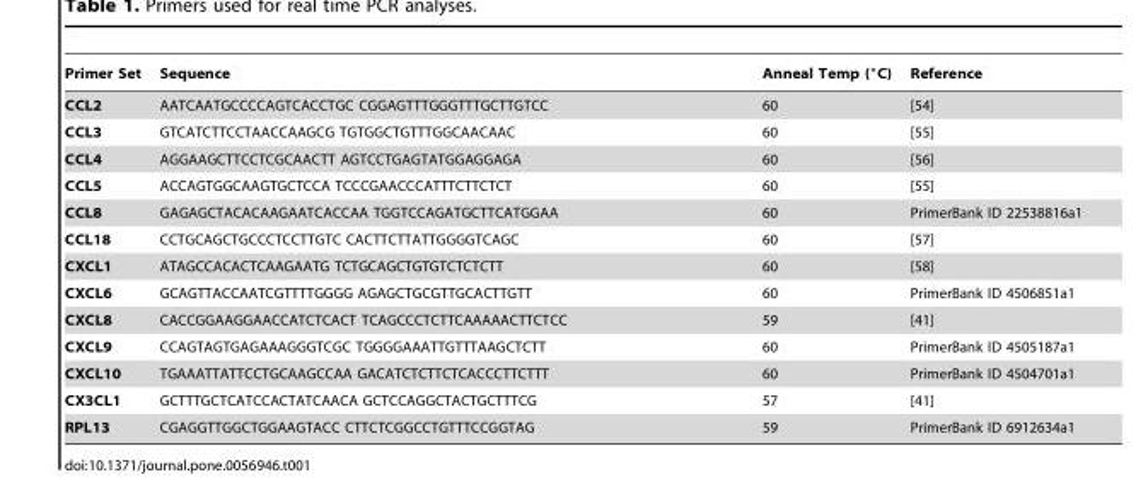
<table><thead><tr><td>Primer Set</td><td>Sequence</td><td>Anneal Temp (°C)</td><td>Reference</td></tr></thead><tbody><tr><td>CCL2</td><td>AATCAATGCCCCAGTCACCTGC CGGAGTTTGGGTTTGCTTGTCC</td><td>60</td><td>[54]</td></tr><tr><td>CCL3</td><td>GTCATCTTCCTAACCAAGCG TGTGGCTGTTTGGCAACAAC</td><td>60</td><td>[55]</td></tr><tr><td>CCL4</td><td>AGGAAGCTTCCTCGCAACTT AGTCCTGAGTATGGAGGAGA</td><td>60</td><td>[56]</td></tr><tr><td>CCL5</td><td>ACCAGTGGCAAGTGCTCCA TCCCGAACCCATTTCTTCTCT</td><td>60</td><td>[55]</td></tr><tr><td>CCL8</td><td>GAGAGCTACACAAGAATCACCAA TGGTCCAGATGCTTCATGGAA</td><td>60</td><td>PrimerBank ID 22538816a1</td></tr><tr><td>CCL18</td><td>CCTGCAGCTGCCCTCCTTGTC CACTTCTTATTGGGGTCAGC</td><td>60</td><td>[57]</td></tr><tr><td>CXCL1</td><td>ATAGCCACACTCAAGAATG TCTGCAGCTGTGTCTCTCTT</td><td>60</td><td>[58]</td></tr><tr><td>CXCL6</td><td>GCAGTTACCAATCGTTTTGGGG AGAGCTGCGTTGCACTTGTT</td><td>60</td><td>PrimerBank ID 4506851a1</td></tr><tr><td>CXCL8</td><td>CACCGGAAGGAACCATCTCACT TCAGCCCTCTTCAAAAACTTCTCC</td><td>59</td><td>[41]</td></tr><tr><td>CXCL9</td><td>CCAGTAGTGAGAAAGGGTCGC TGGGGAAATTGTTTAAGCTCTT</td><td>60</td><td>PrimerBank ID 4505187a1</td></tr><tr><td>CXCL10</td><td>TGAAATTATTCCTGCAAGCCAA GACATCTCTTCTCACCCTTCTTT</td><td>60</td><td>PrimerBank ID 4504701a1</td></tr><tr><td>CX3CL1</td><td>GCTTTGCTCATCCACTATCAACA GCTCCAGGCTACTGCTTTCG</td><td>57</td><td>[41]</td></tr><tr><td>RPL13</td><td>CGAGGTTGGCTGGAAGTACC CTTCTCGGCCTGTTTCCGGTAG</td><td>59</td><td>PrimerBank ID 6912634a1</td></tr></tbody></table>